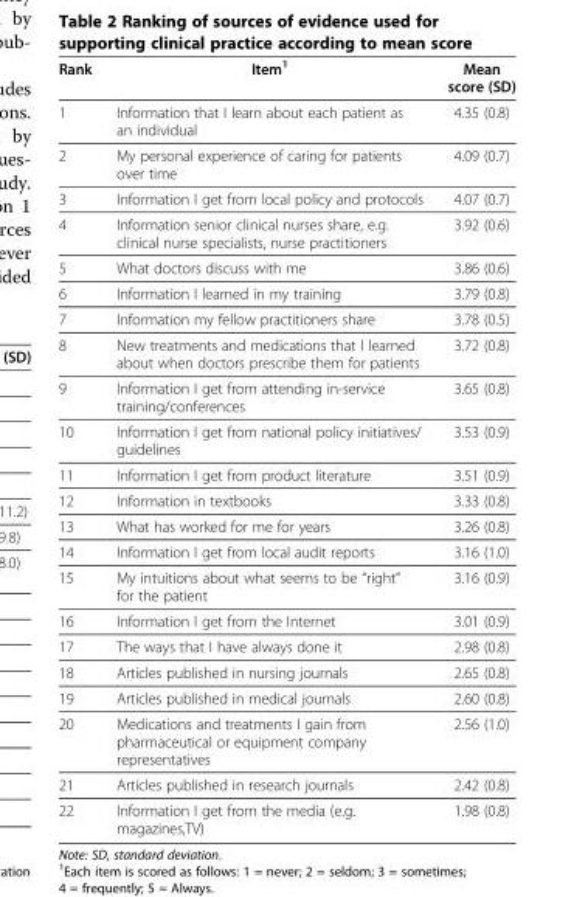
<table><thead><tr><td>Rank</td><td>Item<sup>1</sup></td><td>Mean score (SD)</td></tr></thead><tbody><tr><td>1</td><td>Information that I learn about each patient as an individual</td><td>4.35 (0.8)</td></tr><tr><td>2</td><td>My personal experience of caring for patients over time</td><td>4.09 (0.7)</td></tr><tr><td>3</td><td>Information I get from local policy and protocols</td><td>4.07 (0.7)</td></tr><tr><td>4</td><td>Information senior clinical nurses share, e.g. clinical nurse specialists, nurse practitioners</td><td>3.92 (0.6)</td></tr><tr><td>5</td><td>What doctors discuss with me</td><td>3.86 (0.6)</td></tr><tr><td>6</td><td>Information I learned in my training</td><td>3.79 (0.8)</td></tr><tr><td>7</td><td>Information my fellow practitioners share</td><td>3.78 (0.5)</td></tr><tr><td>8</td><td>New treatments and medications that I learned about when doctors prescribe them for patients</td><td>3.72 (0.8)</td></tr><tr><td>9</td><td>Information I get from attending in-service training/conferences</td><td>3.65 (0.8)</td></tr><tr><td>10</td><td>Information I get from national policy initiatives/ guidelines</td><td>3.53 (0.9)</td></tr><tr><td>11</td><td>Information I get from product literature</td><td>3.51 (0.9)</td></tr><tr><td>12</td><td>Information in textbooks</td><td>3.33 (0.8)</td></tr><tr><td>13</td><td>What has worked for me for years</td><td>3.26 (0.8)</td></tr><tr><td>14</td><td>Information I get from local audit reports</td><td>3.16 (1.0)</td></tr><tr><td>15</td><td>My intuitions about what seems to be “right” for the patient</td><td>3.16 (0.9)</td></tr><tr><td>16</td><td>Information I get from the Internet</td><td>3.01 (0.9)</td></tr><tr><td>17</td><td>The ways that I have always done it</td><td>2.98 (0.8)</td></tr><tr><td>18</td><td>Articles published in nursing journals</td><td>2.65 (0.8)</td></tr><tr><td>19</td><td>Articles published in medical journals</td><td>2.60 (0.8)</td></tr><tr><td>20</td><td>Medications and treatments I gain from pharmaceutical or equipment company representatives</td><td>2.56 (1.0)</td></tr><tr><td>21</td><td>Articles published in research journals</td><td>2.42 (0.8)</td></tr><tr><td>22</td><td>Information I get from the media (e.g. magazines,TV)</td><td>1.98 (0.8)</td></tr></tbody></table>